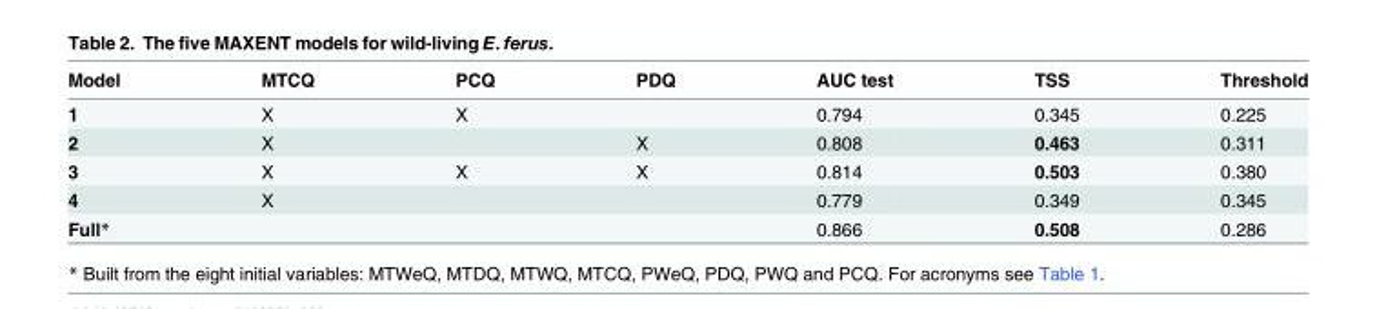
<table><thead><tr><td>Model</td><td>MTCQ</td><td>PCQ</td><td>PDQ</td><td>AUC test</td><td>TSS</td><td>Threshold</td></tr></thead><tbody><tr><td>1</td><td>X</td><td>X</td><td></td><td>0.794</td><td>0.345</td><td>0.225</td></tr><tr><td>2</td><td>X</td><td></td><td>X</td><td>0.808</td><td>0.463</td><td>0.311</td></tr><tr><td>3</td><td>X</td><td>X</td><td>X</td><td>0.814</td><td>0.503</td><td>0.380</td></tr><tr><td>4</td><td>X</td><td></td><td></td><td>0.779</td><td>0.349</td><td>0.345</td></tr><tr><td>Full*</td><td></td><td></td><td></td><td>0.866</td><td>0.508</td><td>0.286</td></tr></tbody></table>